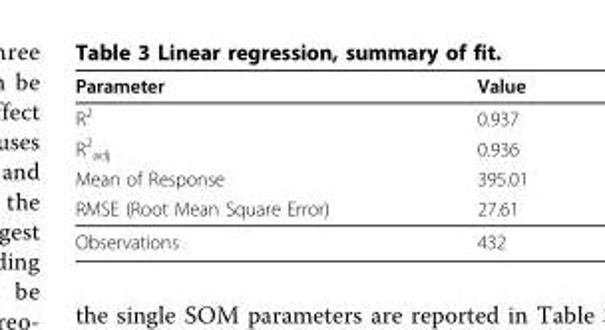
<table><thead><tr><td>Parameter</td><td>Value</td></tr></thead><tbody><tr><td>R<sup>2</sup></td><td>0.937</td></tr><tr><td>R<sup>2</sup> <sub>adj</sub></td><td>0.936</td></tr><tr><td>Mean of Response</td><td>395.01</td></tr><tr><td>RMSE (Root Mean Square Error)</td><td>27.61</td></tr><tr><td>Observations</td><td>432</td></tr></tbody></table>